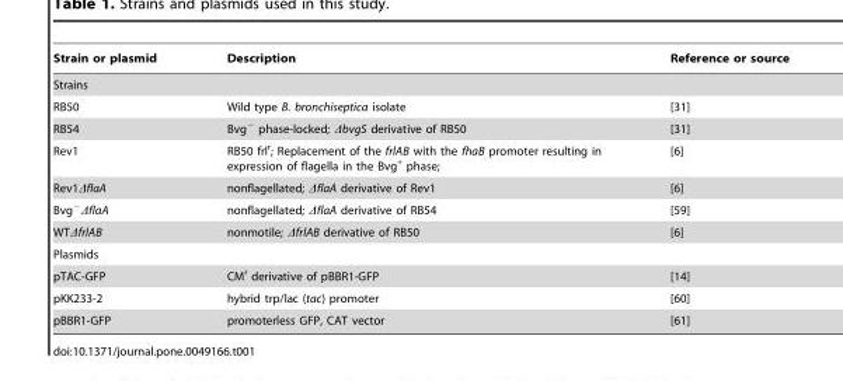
<table><thead><tr><td>Strain or plasmid</td><td>Description</td><td>Reference or source</td></tr></thead><tbody><tr><td colspan="3">Strains</td></tr><tr><td>RB50</td><td>Wild type B. bronchiseptica isolate</td><td>[31]</td></tr><tr><td>RB54</td><td>Bvg<sup>−</sup> phase-locked; ΔbvgS derivative of RB50</td><td>[31]</td></tr><tr><td>Rev1</td><td>RB50 frl<sup>r</sup>; Replacement of the frlAB with the fhaB promoter resulting in expression of flagella in the Bvg<sup>+</sup> phase;</td><td>[6]</td></tr><tr><td>Rev1ΔflaA</td><td>nonflagellated; ΔflaA derivative of Rev1</td><td>[6]</td></tr><tr><td>Bvg<sup>−</sup>ΔflaA</td><td>nonflagellated; ΔflaA derivative of RB54</td><td>[59]</td></tr><tr><td>WTΔfrlAB</td><td>nonmotile; ΔfrlAB derivative of RB50</td><td>[6]</td></tr><tr><td colspan="3">Plasmids</td></tr><tr><td>pTAC-GFP</td><td>CM<sup>r</sup> derivative of pBBR1-GFP</td><td>[14]</td></tr><tr><td>pKK233-2</td><td>hybrid trp/lac (tac) promoter</td><td>[60]</td></tr><tr><td>pBBR1-GFP</td><td>promoterless GFP, CAT vector</td><td>[61]</td></tr></tbody></table>